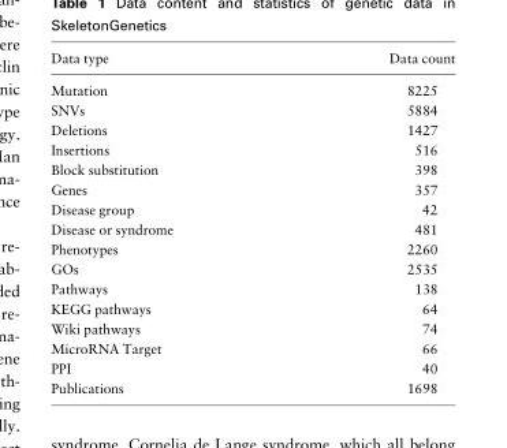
<table><thead><tr><td>Data type</td><td>Data count</td></tr></thead><tbody><tr><td>Mutation</td><td>8225</td></tr><tr><td>SNVs</td><td>5884</td></tr><tr><td>Deletions</td><td>1427</td></tr><tr><td>Insertions</td><td>516</td></tr><tr><td>Block substitution</td><td>398</td></tr><tr><td>Genes</td><td>357</td></tr><tr><td>Disease group</td><td>42</td></tr><tr><td>Disease or syndrome</td><td>481</td></tr><tr><td>Phenotypes</td><td>2260</td></tr><tr><td>GOs</td><td>2535</td></tr><tr><td>Pathways</td><td>138</td></tr><tr><td>KEGG pathways</td><td>64</td></tr><tr><td>Wiki pathways</td><td>74</td></tr><tr><td>MicroRNA Target</td><td>66</td></tr><tr><td>PPI</td><td>40</td></tr><tr><td>Publications</td><td>1698</td></tr></tbody></table>